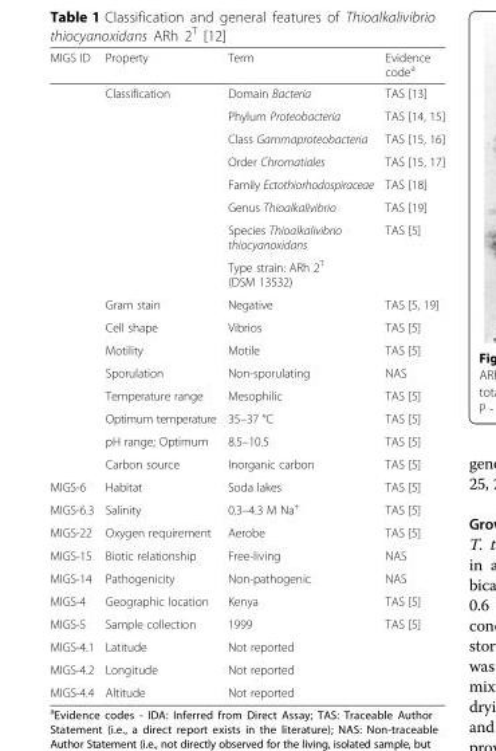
<table><thead><tr><td>MIGS ID</td><td>Property</td><td>Term</td><td>Evidence code<sup>a</sup></td></tr></thead><tbody><tr><td></td><td>Classification</td><td>Domain Bacteria</td><td>TAS [13]</td></tr><tr><td></td><td></td><td>Phylum Proteobacteria</td><td>TAS [14, 15]</td></tr><tr><td></td><td></td><td>Class Gammaproteobacteria</td><td>TAS [15, 16]</td></tr><tr><td></td><td></td><td>Order Chromatiales</td><td>TAS [15, 17]</td></tr><tr><td></td><td></td><td>Family Ectothiorhodospiraceae</td><td>TAS [18]</td></tr><tr><td></td><td></td><td>Genus Thioalkalivibrio</td><td>TAS [19]</td></tr><tr><td></td><td></td><td>Species Thioalkalivibrio thiocyanoxidans</td><td>TAS [5]</td></tr><tr><td></td><td></td><td>Type strain: ARh 2<sup>T</sup> (DSM 13532)</td><td></td></tr><tr><td></td><td>Gram stain</td><td>Negative</td><td>TAS [5, 19]</td></tr><tr><td></td><td>Cell shape</td><td>Vibrios</td><td>TAS [5]</td></tr><tr><td></td><td>Motility</td><td>Motile</td><td>TAS [5]</td></tr><tr><td></td><td>Sporulation</td><td>Non-sporulating</td><td>NAS</td></tr><tr><td></td><td>Temperature range</td><td>Mesophilic</td><td>TAS [5]</td></tr><tr><td></td><td>Optimum temperature</td><td>35–37 °C</td><td>TAS [5]</td></tr><tr><td></td><td>pH range; Optimum</td><td>8.5–10.5</td><td>TAS [5]</td></tr><tr><td></td><td>Carbon source</td><td>Inorganic carbon</td><td>TAS [5]</td></tr><tr><td>MIGS-6</td><td>Habitat</td><td>Soda lakes</td><td>TAS [5]</td></tr><tr><td>MIGS-6.3</td><td>Salinity</td><td>0.3–4.3 M Na<sup>+</sup></td><td>TAS [5]</td></tr><tr><td>MIGS-22</td><td>Oxygen requirement</td><td>Aerobe</td><td>TAS [5]</td></tr><tr><td>MIGS-15</td><td>Biotic relationship</td><td>Free-living</td><td>NAS</td></tr><tr><td>MIGS-14</td><td>Pathogenicity</td><td>Non-pathogenic</td><td>NAS</td></tr><tr><td>MIGS-4</td><td>Geographic location</td><td>Kenya</td><td>TAS [5]</td></tr><tr><td>MIGS-5</td><td>Sample collection</td><td>1999</td><td>TAS [5]</td></tr><tr><td>MIGS-4.1</td><td>Latitude</td><td>Not reported</td><td></td></tr><tr><td>MIGS-4.2</td><td>Longitude</td><td>Not reported</td><td></td></tr><tr><td>MIGS-4.4</td><td>Altitude</td><td>Not reported</td><td></td></tr></tbody></table>